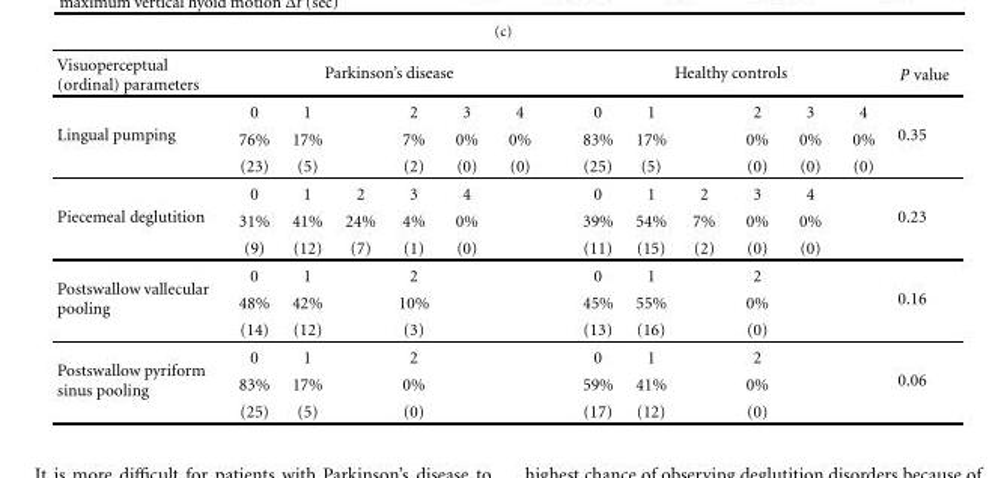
<table><tbody><tr><td>Visuoperceptual (ordinal) parameters</td><td colspan="6">Parkinson’s disease</td><td colspan="6">Healthy controls</td><td>P value</td></tr><tr><td rowspan="3">Lingual pumping</td><td>0</td><td>1</td><td></td><td>2</td><td>3</td><td>4</td><td>0</td><td>1</td><td></td><td>2</td><td>3</td><td>4</td><td rowspan="3">0.35</td></tr><tr><td>76%</td><td>17%</td><td></td><td>7%</td><td>0%</td><td>0%</td><td>83%</td><td>17%</td><td></td><td>0%</td><td>0%</td><td>0%</td></tr><tr><td>(23)</td><td>(5)</td><td></td><td>(2)</td><td>(0)</td><td>(0)</td><td>(25)</td><td>(5)</td><td></td><td>(0)</td><td>(0)</td><td>(0)</td></tr><tr><td rowspan="3">Piecemeal deglutition</td><td>0</td><td>1</td><td>2</td><td>3</td><td>4</td><td></td><td>0</td><td>1</td><td>2</td><td>3</td><td>4</td><td></td><td rowspan="3">0.23</td></tr><tr><td>31%</td><td>41%</td><td>24%</td><td>4%</td><td>0%</td><td></td><td>39%</td><td>54%</td><td>7%</td><td>0%</td><td>0%</td><td></td></tr><tr><td>(9)</td><td>(12)</td><td>(7)</td><td>(1)</td><td>(0)</td><td></td><td>(11)</td><td>(15)</td><td>(2)</td><td>(0)</td><td>(0)</td><td></td></tr><tr><td rowspan="3">Postswallow vallecular pooling</td><td>0</td><td>1</td><td></td><td>2</td><td></td><td></td><td>0</td><td>1</td><td></td><td>2</td><td></td><td></td><td rowspan="3">0.16</td></tr><tr><td>48%</td><td>42%</td><td></td><td>10%</td><td></td><td></td><td>45%</td><td>55%</td><td></td><td>0%</td><td></td><td></td></tr><tr><td>(14)</td><td>(12)</td><td></td><td>(3)</td><td></td><td></td><td>(13)</td><td>(16)</td><td></td><td>(0)</td><td></td><td></td></tr><tr><td rowspan="3">Postswallow pyriform sinus pooling</td><td>0</td><td>1</td><td></td><td>2</td><td></td><td></td><td>0</td><td>1</td><td></td><td>2</td><td></td><td></td><td rowspan="3">0.06</td></tr><tr><td>83%</td><td>17%</td><td></td><td>0%</td><td></td><td></td><td>59%</td><td>41%</td><td></td><td>0%</td><td></td><td></td></tr><tr><td>(25)</td><td>(5)</td><td></td><td>(0)</td><td></td><td></td><td>(17)</td><td>(12)</td><td></td><td>(0)</td><td></td><td></td></tr></tbody></table>